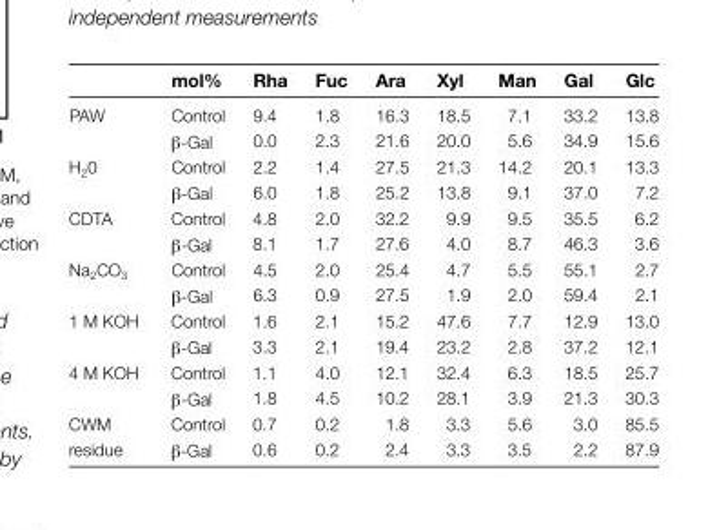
<table><thead><tr><td></td><td>mol%</td><td>Rha</td><td>Fuc</td><td>Ara</td><td>Xyl</td><td>Man</td><td>Gal</td><td>Glc</td></tr></thead><tbody><tr><td rowspan="2">PAW</td><td>Control</td><td>9.4</td><td>1.8</td><td>16.3</td><td>18.5</td><td>7.1</td><td>33.2</td><td>13.8</td></tr><tr><td>β-Gal</td><td>0.0</td><td>2.3</td><td>21.6</td><td>20.0</td><td>5.6</td><td>34.9</td><td>15.6</td></tr><tr><td rowspan="2">H<sub>2</sub>0</td><td>Control</td><td>2.2</td><td>1.4</td><td>27.5</td><td>21.3</td><td>14.2</td><td>20.1</td><td>13.3</td></tr><tr><td>β-Gal</td><td>6.0</td><td>1.8</td><td>25.2</td><td>13.8</td><td>9.1</td><td>37.0</td><td>7.2</td></tr><tr><td rowspan="2">CDTA</td><td>Control</td><td>4.8</td><td>2.0</td><td>32.2</td><td>9.9</td><td>9.5</td><td>35.5</td><td>6.2</td></tr><tr><td>β-Gal</td><td>8.1</td><td>1.7</td><td>27.6</td><td>4.0</td><td>8.7</td><td>46.3</td><td>3.6</td></tr><tr><td rowspan="2">Na<sub>2</sub>CO<sub>3</sub></td><td>Control</td><td>4.5</td><td>2.0</td><td>25.4</td><td>4.7</td><td>5.5</td><td>55.1</td><td>2.7</td></tr><tr><td>β-Gal</td><td>6.3</td><td>0.9</td><td>27.5</td><td>1.9</td><td>2.0</td><td>59.4</td><td>2.1</td></tr><tr><td rowspan="2">1 M KOH</td><td>Control</td><td>1.6</td><td>2.1</td><td>15.2</td><td>47.6</td><td>7.7</td><td>12.9</td><td>13.0</td></tr><tr><td>β-Gal</td><td>3.3</td><td>2.1</td><td>19.4</td><td>23.2</td><td>2.8</td><td>37.2</td><td>12.1</td></tr><tr><td rowspan="2">4 M KOH</td><td>Control</td><td>1.1</td><td>4.0</td><td>12.1</td><td>32.4</td><td>6.3</td><td>18.5</td><td>25.7</td></tr><tr><td>β-Gal</td><td>1.8</td><td>4.5</td><td>10.2</td><td>28.1</td><td>3.9</td><td>21.3</td><td>30.3</td></tr><tr><td rowspan="2">CWM residue</td><td>Control</td><td>0.7</td><td>0.2</td><td>1.8</td><td>3.3</td><td>5.6</td><td>3.0</td><td>85.5</td></tr><tr><td>β-Gal</td><td>0.6</td><td>0.2</td><td>2.4</td><td>3.3</td><td>3.5</td><td>2.2</td><td>87.9</td></tr></tbody></table>